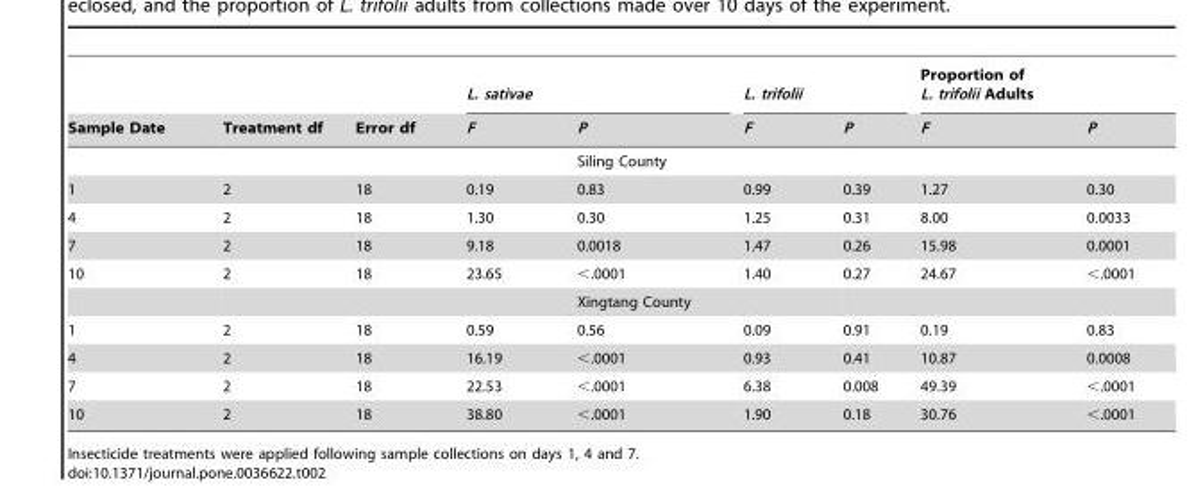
<table><thead><tr><td rowspan="2">Sample Date</td><td rowspan="2">Treatment df</td><td rowspan="2">Error df</td><td colspan="2">L. sativae</td><td colspan="2">L. trifolii</td><td colspan="2">Proportion of L. trifolii Adults</td></tr><tr><td>F</td><td>P</td><td>F</td><td>P</td><td>F</td><td>P</td></tr></thead><tbody><tr><td></td><td></td><td></td><td></td><td>Siling County</td><td></td><td></td><td></td><td></td></tr><tr><td>1</td><td>2</td><td>18</td><td>0.19</td><td>0.83</td><td>0.99</td><td>0.39</td><td>1.27</td><td>0.30</td></tr><tr><td>4</td><td>2</td><td>18</td><td>1.30</td><td>0.30</td><td>1.25</td><td>0.31</td><td>8.00</td><td>0.0033</td></tr><tr><td>7</td><td>2</td><td>18</td><td>9.18</td><td>0.0018</td><td>1.47</td><td>0.26</td><td>15.98</td><td>0.0001</td></tr><tr><td rowspan="2">10</td><td>2</td><td>18</td><td>23.65</td><td>&lt;.0001</td><td>1.40</td><td>0.27</td><td>24.67</td><td>&lt;.0001</td></tr><tr><td></td><td></td><td></td><td>Xingtang County</td><td></td><td></td><td></td><td></td></tr><tr><td>1</td><td>2</td><td>18</td><td>0.59</td><td>0.56</td><td>0.09</td><td>0.91</td><td>0.19</td><td>0.83</td></tr><tr><td>4</td><td>2</td><td>18</td><td>16.19</td><td>&lt;.0001</td><td>0.93</td><td>0.41</td><td>10.87</td><td>0.0008</td></tr><tr><td>7</td><td>2</td><td>18</td><td>22.53</td><td>&lt;.0001</td><td>6.38</td><td>0.008</td><td>49.39</td><td>&lt;.0001</td></tr><tr><td>10</td><td>2</td><td>18</td><td>38.80</td><td>&lt;.0001</td><td>1.90</td><td>0.18</td><td>30.76</td><td>&lt;.0001</td></tr></tbody></table>